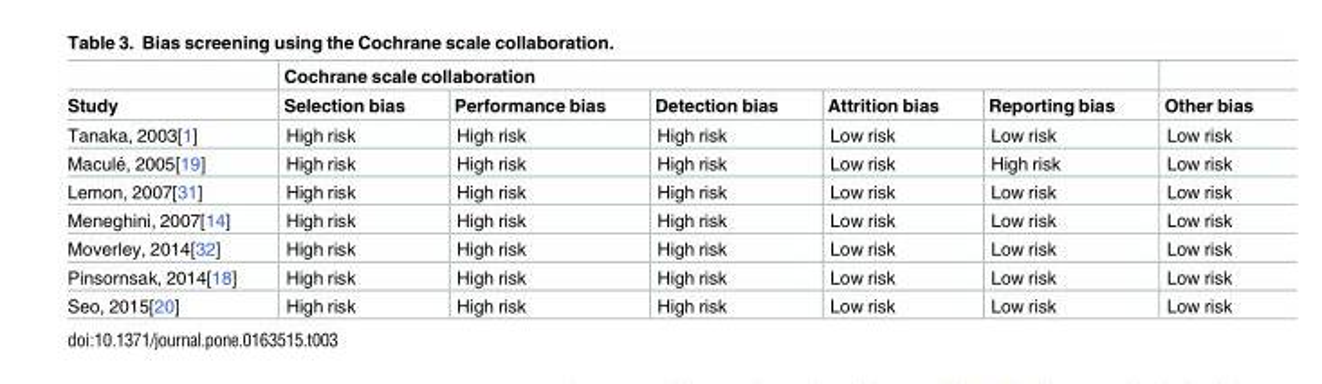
<table><thead><tr><td rowspan="2">Study</td><td colspan="5">Cochrane scale collaboration</td><td rowspan="2">Other bias</td></tr><tr><td>Selection bias</td><td>Performance bias</td><td>Detection bias</td><td>Attrition bias</td><td>Reporting bias</td></tr></thead><tbody><tr><td>Tanaka, 2003[1]</td><td>High risk</td><td>High risk</td><td>High risk</td><td>Low risk</td><td>Low risk</td><td>Low risk</td></tr><tr><td>Macule´, 2005[19]</td><td>High risk</td><td>High risk</td><td>High risk</td><td>Low risk</td><td>High risk</td><td>Low risk</td></tr><tr><td>Lemon, 2007[31]</td><td>High risk</td><td>High risk</td><td>High risk</td><td>Low risk</td><td>Low risk</td><td>Low risk</td></tr><tr><td>Meneghini, 2007[14]</td><td>High risk</td><td>High risk</td><td>High risk</td><td>Low risk</td><td>Low risk</td><td>Low risk</td></tr><tr><td>Moverley, 2014[32]</td><td>High risk</td><td>High risk</td><td>High risk</td><td>Low risk</td><td>Low risk</td><td>Low risk</td></tr><tr><td>Pinsornsak, 2014[18]</td><td>High risk</td><td>High risk</td><td>High risk</td><td>Low risk</td><td>Low risk</td><td>Low risk</td></tr><tr><td>Seo, 2015[20]</td><td>High risk</td><td>High risk</td><td>High risk</td><td>Low risk</td><td>Low risk</td><td>Low risk</td></tr></tbody></table>